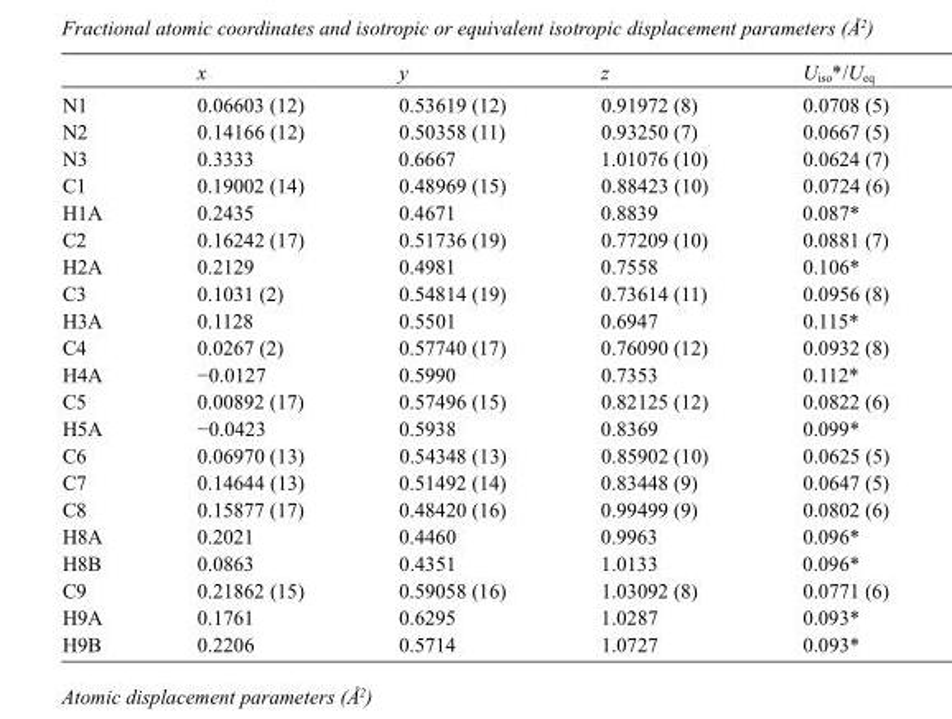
<table><thead><tr><td></td><td>x</td><td>y</td><td>z</td><td>U<sub>iso</sub>*/U<sub>eq</sub></td></tr></thead><tbody><tr><td>N1</td><td>0.06603 (12)</td><td>0.53619 (12)</td><td>0.91972 (8)</td><td>0.0708 (5)</td></tr><tr><td>N2</td><td>0.14166 (12)</td><td>0.50358 (11)</td><td>0.93250 (7)</td><td>0.0667 (5)</td></tr><tr><td>N3</td><td>0.3333</td><td>0.6667</td><td>1.01076 (10)</td><td>0.0624 (7)</td></tr><tr><td>C1</td><td>0.19002 (14)</td><td>0.48969 (15)</td><td>0.88423 (10)</td><td>0.0724 (6)</td></tr><tr><td>H1A</td><td>0.2435</td><td>0.4671</td><td>0.8839</td><td>0.087*</td></tr><tr><td>C2</td><td>0.16242 (17)</td><td>0.51736 (19)</td><td>0.77209 (10)</td><td>0.0881 (7)</td></tr><tr><td>H2A</td><td>0.2129</td><td>0.4981</td><td>0.7558</td><td>0.106*</td></tr><tr><td>C3</td><td>0.1031 (2)</td><td>0.54814 (19)</td><td>0.73614 (11)</td><td>0.0956 (8)</td></tr><tr><td>H3A</td><td>0.1128</td><td>0.5501</td><td>0.6947</td><td>0.115*</td></tr><tr><td>C4</td><td>0.0267 (2)</td><td>0.57740 (17)</td><td>0.76090 (12)</td><td>0.0932 (8)</td></tr><tr><td>H4A</td><td>−0.0127</td><td>0.5990</td><td>0.7353</td><td>0.112*</td></tr><tr><td>C5</td><td>0.00892 (17)</td><td>0.57496 (15)</td><td>0.82125 (12)</td><td>0.0822 (6)</td></tr><tr><td>H5A</td><td>−0.0423</td><td>0.5938</td><td>0.8369</td><td>0.099*</td></tr><tr><td>C6</td><td>0.06970 (13)</td><td>0.54348 (13)</td><td>0.85902 (10)</td><td>0.0625 (5)</td></tr><tr><td>C7</td><td>0.14644 (13)</td><td>0.51492 (14)</td><td>0.83448 (9)</td><td>0.0647 (5)</td></tr><tr><td>C8</td><td>0.15877 (17)</td><td>0.48420 (16)</td><td>0.99499 (9)</td><td>0.0802 (6)</td></tr><tr><td>H8A</td><td>0.2021</td><td>0.4460</td><td>0.9963</td><td>0.096*</td></tr><tr><td>H8B</td><td>0.0863</td><td>0.4351</td><td>1.0133</td><td>0.096*</td></tr><tr><td>C9</td><td>0.21862 (15)</td><td>0.59058 (16)</td><td>1.03092 (8)</td><td>0.0771 (6)</td></tr><tr><td>H9A</td><td>0.1761</td><td>0.6295</td><td>1.0287</td><td>0.093*</td></tr><tr><td>H9B</td><td>0.2206</td><td>0.5714</td><td>1.0727</td><td>0.093*</td></tr></tbody></table>